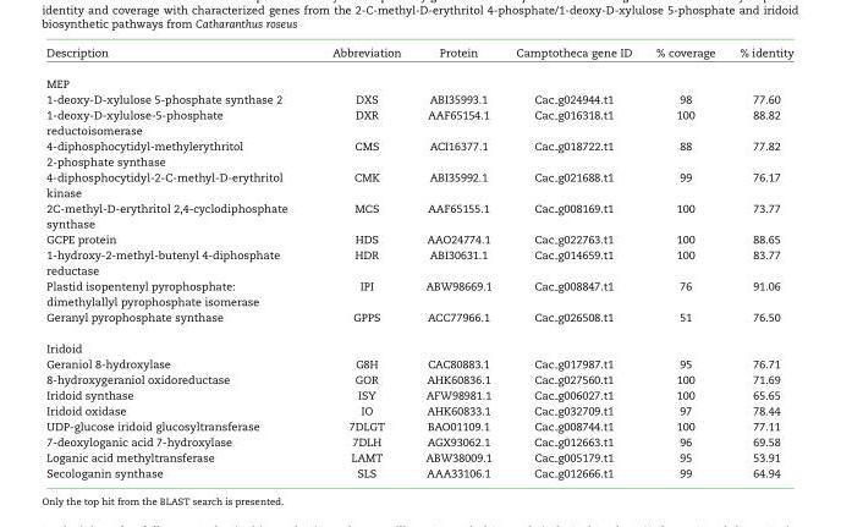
<table><thead><tr><td>Description</td><td>Abbreviation</td><td>Protein</td><td>Camptotheca gene ID</td><td>% coverage</td><td>% identity</td></tr></thead><tbody><tr><td colspan="6">MEP</td></tr><tr><td>1-deoxy-D-xylulose 5-phosphate synthase 2</td><td>DXS</td><td>ABI35993.1</td><td>Cac g024944.t1</td><td>98</td><td>77.60</td></tr><tr><td>1-deoxy-D-xylulose-5-phosphate reductoisomerase</td><td>DXR</td><td>AAF65154.1</td><td>Cac g016318.t1</td><td>100</td><td>88.82</td></tr><tr><td>4-diphosphocytidyl-methylerythritol 2-phosphate synthase</td><td>CMS</td><td>ACI16377.1</td><td>Cac g018722.t1</td><td>88</td><td>77.82</td></tr><tr><td>4-diphosphocytidyl-2-C-methyl-D-erythritol kinase</td><td>CMK</td><td>ABI35992.1</td><td>Cac g021688.t1</td><td>99</td><td>76.17</td></tr><tr><td>2C-methyl-D-erythritol 2,4-cyclodiphosphate synthase</td><td>MCS</td><td>AAF65155.1</td><td>Cac g008169.t1</td><td>100</td><td>73.77</td></tr><tr><td>GCPE protein</td><td>HDS</td><td>AAO24774.1</td><td>Cac g022763.t1</td><td>100</td><td>88.65</td></tr><tr><td>1-hydroxy-2-methyl-butenyl 4-diphosphate reductase</td><td>HDR</td><td>ABI30631.1</td><td>Cac g014659.t1</td><td>100</td><td>83.77</td></tr><tr><td>Plastid isopentenyl pyrophosphate: dimethylallyl pyrophosphate isomerase</td><td>IPI</td><td>ABW98669.1</td><td>Cac g008847.t1</td><td>76</td><td>91.06</td></tr><tr><td>Geranyl pyrophosphate synthase</td><td>GPPS</td><td>ACC77966.1</td><td>Cac g026508.t1</td><td>51</td><td>76.50</td></tr><tr><td colspan="6">Iridoid</td></tr><tr><td>Geraniol 8-hydroxylase</td><td>G8H</td><td>CAC80883.1</td><td>Cac g017987.t1</td><td>95</td><td>76.71</td></tr><tr><td>8-hydroxygeraniol oxidoreductase</td><td>GOR</td><td>AHK60836.1</td><td>Cac g027560.t1</td><td>100</td><td>71.69</td></tr><tr><td>Iridoid synthase</td><td>ISY</td><td>AFW98981.1</td><td>Cac g006027.t1</td><td>100</td><td>65.65</td></tr><tr><td>Iridoid oxidase</td><td>IO</td><td>AHK60833.1</td><td>Cac g032709.t1</td><td>97</td><td>78.44</td></tr><tr><td>UDP-glucose iridoid glucosyltransferase</td><td>7DLGT</td><td>BAO01109.1</td><td>Cac g008744.t1</td><td>100</td><td>77.11</td></tr><tr><td>7-deoxyloganic acid 7-hydroxylase</td><td>7DLH</td><td>AGX93062.1</td><td>Cac g012663.t1</td><td>96</td><td>69.58</td></tr><tr><td>Loganic acid methyltransferase</td><td>LAMT</td><td>ABW38009.1</td><td>Cac g005179.t1</td><td>95</td><td>53.91</td></tr><tr><td>Secologanin synthase</td><td>SLS</td><td>AAA33106.1</td><td>Cac g012666.t1</td><td>99</td><td>64.94</td></tr></tbody></table>